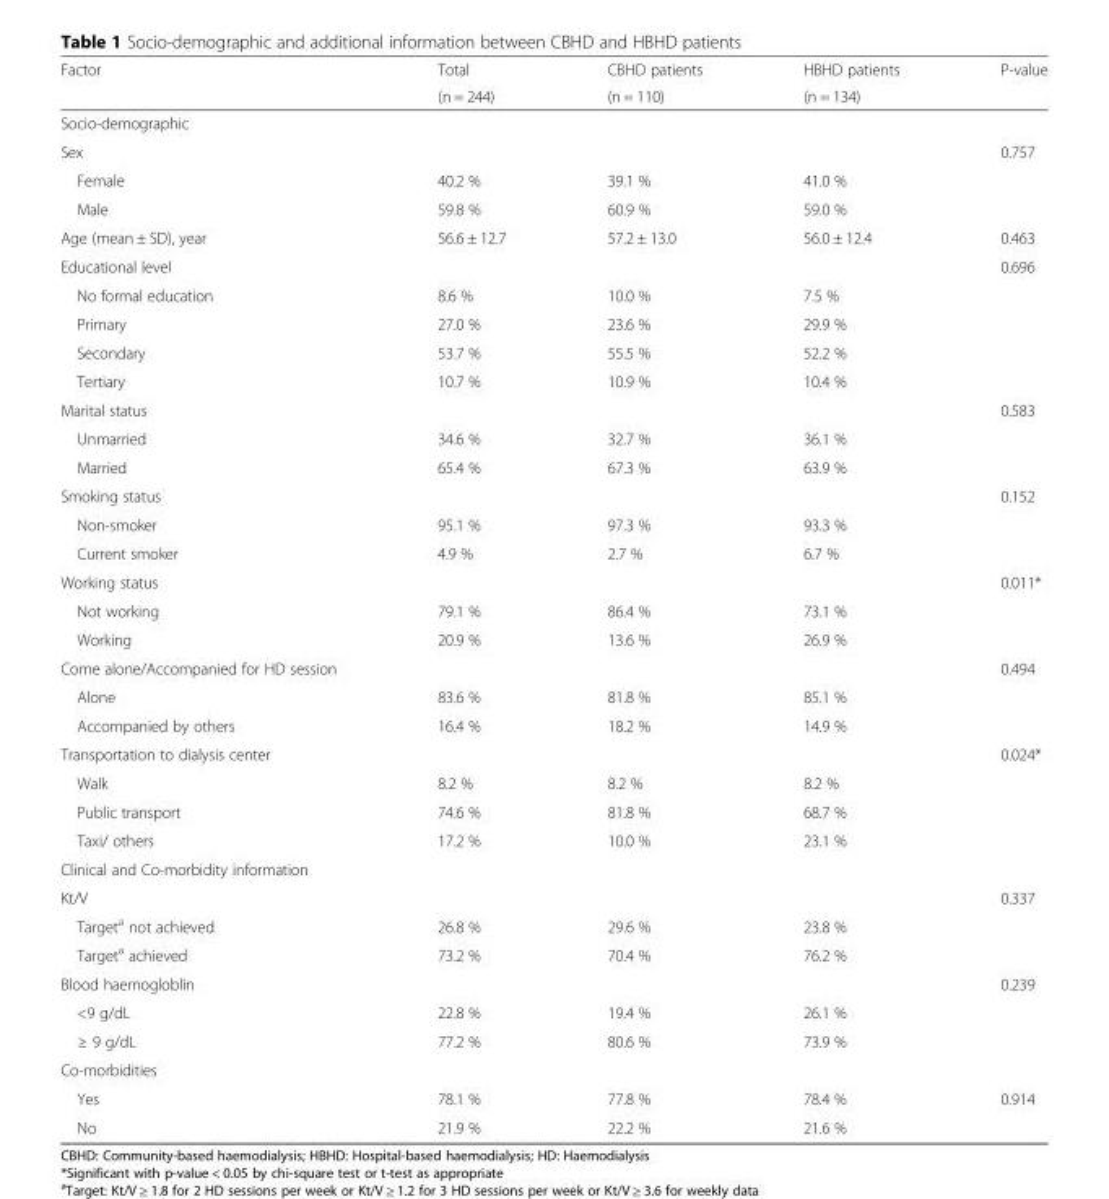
<table><thead><tr><td rowspan="2">Factor</td><td rowspan="2">Total (n = 244)</td><td rowspan="2">CBHD patients (n = 110)</td><td rowspan="2">HBHD patients (n = 134)</td><td rowspan="2">P-value</td></tr><tr></tr></thead><tbody><tr><td colspan="5">Socio-demographic</td></tr><tr><td>Sex</td><td></td><td></td><td></td><td>0.757</td></tr><tr><td>Female</td><td>40.2 %</td><td>39.1 %</td><td>41.0 %</td><td></td></tr><tr><td>Male</td><td>59.8 %</td><td>60.9 %</td><td>59.0 %</td><td></td></tr><tr><td>Age (mean ± SD), year</td><td>56.6 ± 12.7</td><td>57.2 ± 13.0</td><td>56.0 ± 12.4</td><td>0.463</td></tr><tr><td>Educational level</td><td></td><td></td><td></td><td>0.696</td></tr><tr><td>No formal education</td><td>8.6 %</td><td>10.0 %</td><td>7.5 %</td><td></td></tr><tr><td>Primary</td><td>27.0 %</td><td>23.6 %</td><td>29.9 %</td><td></td></tr><tr><td>Secondary</td><td>53.7 %</td><td>55.5 %</td><td>52.2 %</td><td></td></tr><tr><td>Tertiary</td><td>10.7 %</td><td>10.9 %</td><td>10.4 %</td><td></td></tr><tr><td>Marital status</td><td></td><td></td><td></td><td>0.583</td></tr><tr><td>Unmarried</td><td>34.6 %</td><td>32.7 %</td><td>36.1 %</td><td></td></tr><tr><td>Married</td><td>65.4 %</td><td>67.3 %</td><td>63.9 %</td><td></td></tr><tr><td>Smoking status</td><td></td><td></td><td></td><td>0.152</td></tr><tr><td>Non-smoker</td><td>95.1 %</td><td>97.3 %</td><td>93.3 %</td><td></td></tr><tr><td>Current smoker</td><td>4.9 %</td><td>2.7 %</td><td>6.7 %</td><td></td></tr><tr><td>Working status</td><td></td><td></td><td></td><td>0.011*</td></tr><tr><td>Not working</td><td>79.1 %</td><td>86.4 %</td><td>73.1 %</td><td></td></tr><tr><td>Working</td><td>20.9 %</td><td>13.6 %</td><td>26.9 %</td><td></td></tr><tr><td>Come alone/Accompanied for HD session</td><td></td><td></td><td></td><td>0.494</td></tr><tr><td>Alone</td><td>83.6 %</td><td>81.8 %</td><td>85.1 %</td><td></td></tr><tr><td>Accompanied by others</td><td>16.4 %</td><td>18.2 %</td><td>14.9 %</td><td></td></tr><tr><td>Transportation to dialysis center</td><td></td><td></td><td></td><td>0.024*</td></tr><tr><td>Walk</td><td>8.2 %</td><td>8.2 %</td><td>8.2 %</td><td></td></tr><tr><td>Public transport</td><td>74.6 %</td><td>81.8 %</td><td>68.7 %</td><td></td></tr><tr><td>Taxi/ others</td><td>17.2 %</td><td>10.0 %</td><td>23.1 %</td><td></td></tr><tr><td colspan="5">Clinical and Co-morbidity information</td></tr><tr><td>Kt/V</td><td></td><td></td><td></td><td>0.337</td></tr><tr><td>Target<sup>a</sup> not achieved</td><td>26.8 %</td><td>29.6 %</td><td>23.8 %</td><td></td></tr><tr><td>Target<sup>a</sup> achieved</td><td>73.2 %</td><td>70.4 %</td><td>76.2 %</td><td></td></tr><tr><td>Blood haemogloblin</td><td></td><td></td><td></td><td>0.239</td></tr><tr><td>&lt;9 g/dL</td><td>22.8 %</td><td>19.4 %</td><td>26.1 %</td><td></td></tr><tr><td>≥ 9 g/dL</td><td>77.2 %</td><td>80.6 %</td><td>73.9 %</td><td></td></tr><tr><td colspan="5">Co-morbidities</td></tr><tr><td>Yes</td><td>78.1 %</td><td>77.8 %</td><td>78.4 %</td><td>0.914</td></tr><tr><td>No</td><td>21.9 %</td><td>22.2 %</td><td>21.6 %</td><td></td></tr></tbody></table>